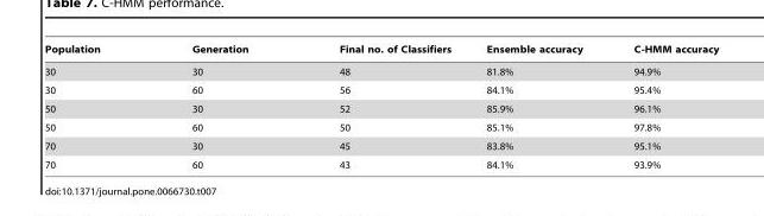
<table><thead><tr><td>Population</td><td>Generation</td><td>Final no. of Classifiers</td><td>Ensemble accuracy</td><td>C-HMM accuracy</td></tr></thead><tbody><tr><td>30</td><td>30</td><td>48</td><td>81.8%</td><td>94.9%</td></tr><tr><td>30</td><td>60</td><td>56</td><td>84.1%</td><td>95.4%</td></tr><tr><td>50</td><td>30</td><td>52</td><td>85.9%</td><td>96.1%</td></tr><tr><td>50</td><td>60</td><td>50</td><td>85.1%</td><td>97.8%</td></tr><tr><td>70</td><td>30</td><td>45</td><td>83.8%</td><td>95.1%</td></tr><tr><td>70</td><td>60</td><td>43</td><td>84.1%</td><td>93.9%</td></tr></tbody></table>